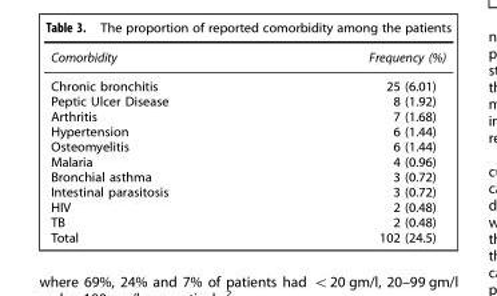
<table><thead><tr><td>Comorbidity</td><td>Frequency (%)</td></tr></thead><tbody><tr><td>Chronic bronchitis</td><td>25 (6.01)</td></tr><tr><td>Peptic Ulcer Disease</td><td>8 (1.92)</td></tr><tr><td>Arthritis</td><td>7 (1.68)</td></tr><tr><td>Hypertension</td><td>6 (1.44)</td></tr><tr><td>Osteomyelitis</td><td>6 (1.44)</td></tr><tr><td>Malaria</td><td>4 (0.96)</td></tr><tr><td>Bronchial asthma</td><td>3 (0.72)</td></tr><tr><td>Intestinal parasitosis</td><td>3 (0.72)</td></tr><tr><td>HIV</td><td>2 (0.48)</td></tr><tr><td>TB</td><td>2 (0.48)</td></tr><tr><td>Total</td><td>102 (24.5)</td></tr></tbody></table>